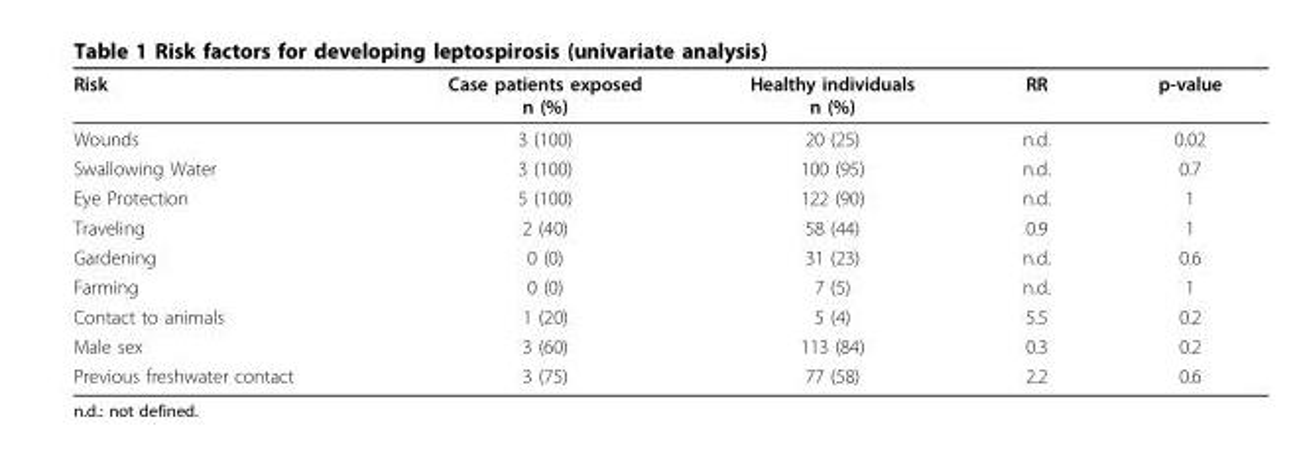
<table><thead><tr><td>Risk</td><td>Case patients exposed n (%)</td><td>Healthy individuals n (%)</td><td>RR</td><td>p-value</td></tr></thead><tbody><tr><td>Wounds</td><td>3 (100)</td><td>20 (25)</td><td>n.d.</td><td>0.02</td></tr><tr><td>Swallowing Water</td><td>3 (100)</td><td>100 (95)</td><td>n.d.</td><td>0.7</td></tr><tr><td>Eye Protection</td><td>5 (100)</td><td>122 (90)</td><td>n.d.</td><td>1</td></tr><tr><td>Traveling</td><td>2 (40)</td><td>58 (44)</td><td>0.9</td><td>1</td></tr><tr><td>Gardening</td><td>0 (0)</td><td>31 (23)</td><td>n.d.</td><td>0.6</td></tr><tr><td>Farming</td><td>0 (0)</td><td>7 (5)</td><td>n.d.</td><td>1</td></tr><tr><td>Contact to animals</td><td>1 (20)</td><td>5 (4)</td><td>5.5</td><td>0.2</td></tr><tr><td>Male sex</td><td>3 (60)</td><td>113 (84)</td><td>0.3</td><td>0.2</td></tr><tr><td>Previous freshwater contact</td><td>3 (75)</td><td>77 (58)</td><td>2.2</td><td>0.6</td></tr></tbody></table>